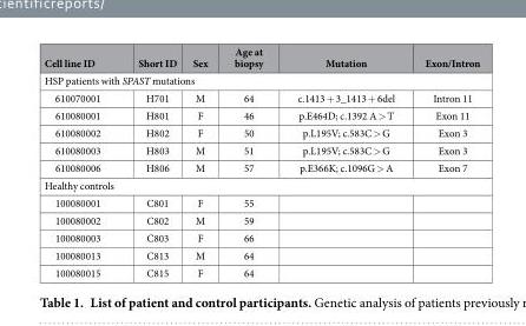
<table><thead><tr><td>Cell line ID</td><td>Short ID</td><td>Sex</td><td>Age at biopsy</td><td>Mutation</td><td>Exon/Intron</td></tr></thead><tbody><tr><td colspan="6">HSP patients with SPAST mutations</td></tr><tr><td>610070001</td><td>H701</td><td>M</td><td>64</td><td>c.1413 + 3_1413 + 6del</td><td>Intron 11</td></tr><tr><td>610080001</td><td>H801</td><td>F</td><td>46</td><td>p.E464D; c.1392 A &gt; T</td><td>Exon 11</td></tr><tr><td>610080002</td><td>H802</td><td>F</td><td>50</td><td>p.L195V; c.583C &gt; G</td><td>Exon 3</td></tr><tr><td>610080003</td><td>H803</td><td>M</td><td>51</td><td>p.L195V; c.583C &gt; G</td><td>Exon 3</td></tr><tr><td>610080006</td><td>H806</td><td>M</td><td>57</td><td>p.E366K; c.1096G &gt; A</td><td>Exon 7</td></tr><tr><td colspan="6">Healthy controls</td></tr><tr><td>100080001</td><td>C801</td><td>F</td><td>55</td><td></td><td></td></tr><tr><td>100080002</td><td>C802</td><td>M</td><td>59</td><td></td><td></td></tr><tr><td>100080003</td><td>C803</td><td>F</td><td>66</td><td></td><td></td></tr><tr><td>100080013</td><td>C813</td><td>M</td><td>64</td><td></td><td></td></tr><tr><td>100080015</td><td>C815</td><td>F</td><td>64</td><td></td><td></td></tr></tbody></table>